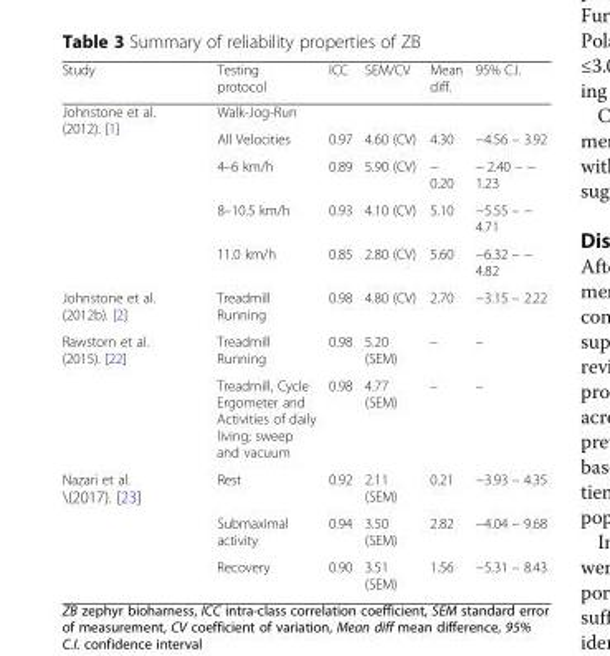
<table><thead><tr><td>Study</td><td>Testing protocol</td><td>ICC</td><td>SEM/CV</td><td>Mean diff.</td><td>95% C.I.</td></tr></thead><tbody><tr><td rowspan="5">Johnstone et al. (2012). [1]</td><td>Walk-Jog-Run</td><td></td><td></td><td></td><td></td></tr><tr><td>All Velocities</td><td>0.97</td><td>4.60 (CV)</td><td>4.30</td><td>−4.56 – 3.92</td></tr><tr><td>4–6 km/h</td><td>0.89</td><td>5.90 (CV)</td><td>− 0.20</td><td>− 2.40 – − 1.23</td></tr><tr><td>8–10.5 km/h</td><td>0.93</td><td>4.10 (CV)</td><td>5.10</td><td>−5.55 – − 4.71</td></tr><tr><td>11.0 km/h</td><td>0.85</td><td>2.80 (CV)</td><td>5.60</td><td>−6.32 – − 4.82</td></tr><tr><td>Johnstone et al. (2012b). [2]</td><td>Treadmill Running</td><td>0.98</td><td>4.80 (CV)</td><td>2.70</td><td>−3.15 – 2.22</td></tr><tr><td rowspan="2">Rawstorn et al. (2015). [22]</td><td>Treadmill Running</td><td>0.98</td><td>5.20 (SEM)</td><td>–</td><td>–</td></tr><tr><td>Treadmill, Cycle Ergometer and Activities of daily living; sweep and vacuum</td><td>0.98</td><td>4.77 (SEM)</td><td>–</td><td>–</td></tr><tr><td rowspan="3">Nazari et al. \(2017). [23]</td><td>Rest</td><td>0.92</td><td>2.11 (SEM)</td><td>0.21</td><td>−3.93 – 4.35</td></tr><tr><td>Submaximal activity</td><td>0.94</td><td>3.50 (SEM)</td><td>2.82</td><td>−4.04 – 9.68</td></tr><tr><td>Recovery</td><td>0.90</td><td>3.51 (SEM)</td><td>1.56</td><td>−5.31 – 8.43</td></tr></tbody></table>